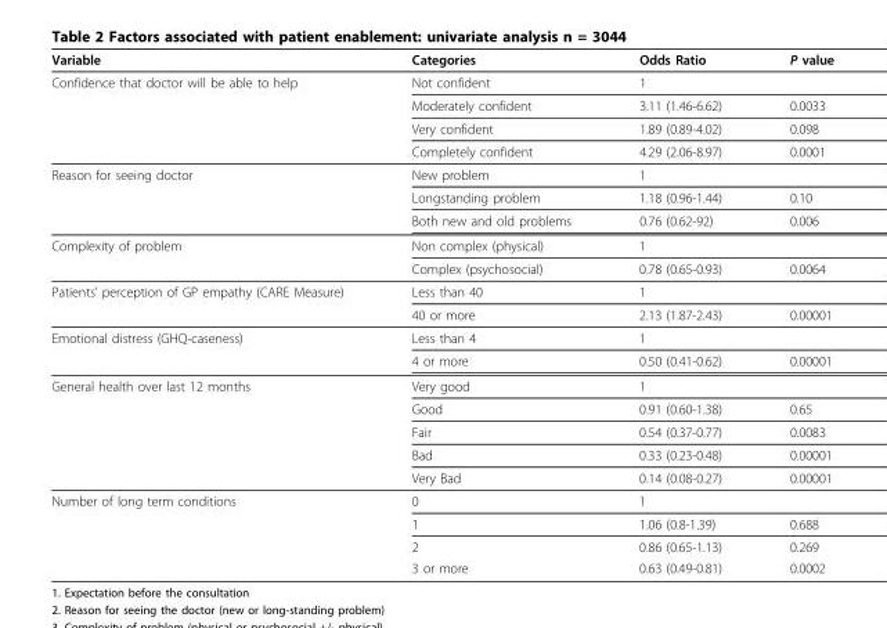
<table><thead><tr><td>Variable</td><td>Categories</td><td>Odds Ratio</td><td>P value</td></tr></thead><tbody><tr><td rowspan="4">Confidence that doctor will be able to help</td><td>Not confident</td><td>1</td><td></td></tr><tr><td>Moderately confident</td><td>3.11 (1.46-6.62)</td><td>0.0033</td></tr><tr><td>Very confident</td><td>1.89 (0.89-4.02)</td><td>0.098</td></tr><tr><td>Completely confident</td><td>4.29 (2.06-8.97)</td><td>0.0001</td></tr><tr><td rowspan="3">Reason for seeing doctor</td><td>New problem</td><td>1</td><td></td></tr><tr><td>Longstanding problem</td><td>1.18 (0.96-1.44)</td><td>0.10</td></tr><tr><td>Both new and old problems</td><td>0.76 (0.62-92)</td><td>0.006</td></tr><tr><td rowspan="2">Complexity of problem</td><td>Non complex (physical)</td><td>1</td><td></td></tr><tr><td>Complex (psychosocial)</td><td>0.78 (0.65-0.93)</td><td>0.0064</td></tr><tr><td rowspan="2">Patients’ perception of GP empathy (CARE Measure)</td><td>Less than 40</td><td>1</td><td></td></tr><tr><td>40 or more</td><td>2.13 (1.87-2.43)</td><td>0.00001</td></tr><tr><td rowspan="2">Emotional distress (GHQ-caseness)</td><td>Less than 4</td><td>1</td><td></td></tr><tr><td>4 or more</td><td>0.50 (0.41-0.62)</td><td>0.00001</td></tr><tr><td rowspan="5">General health over last 12 months</td><td>Very good</td><td>1</td><td></td></tr><tr><td>Good</td><td>0.91 (0.60-1.38)</td><td>0.65</td></tr><tr><td>Fair</td><td>0.54 (0.37-0.77)</td><td>0.0083</td></tr><tr><td>Bad</td><td>0.33 (0.23-0.48)</td><td>0.00001</td></tr><tr><td>Very Bad</td><td>0.14 (0.08-0.27)</td><td>0.00001</td></tr><tr><td rowspan="4">Number of long term conditions</td><td>0</td><td>1</td><td></td></tr><tr><td>1</td><td>1.06 (0.8-1.39)</td><td>0.688</td></tr><tr><td>2</td><td>0.86 (0.65-1.13)</td><td>0.269</td></tr><tr><td>3 or more</td><td>0.63 (0.49-0.81)</td><td>0.0002</td></tr></tbody></table>